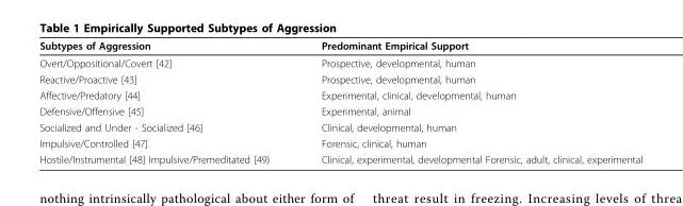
<table><thead><tr><td>Subtypes of Aggression</td><td>Predominant Empirical Support</td></tr></thead><tbody><tr><td>Overt/Oppositional/Covert [42]</td><td>Prospective, developmental, human</td></tr><tr><td>Reactive/Proactive [43]</td><td>Prospective, developmental, human</td></tr><tr><td>Affective/Predatory [44]</td><td>Experimental, clinical, developmental, human</td></tr><tr><td>Defensive/Offensive [45]</td><td>Experimental, animal</td></tr><tr><td>Socialized and Under - Socialized [46]</td><td>Clinical, developmental, human</td></tr><tr><td>Impulsive/Controlled [47]</td><td>Forensic, clinical, human</td></tr><tr><td>Hostile/Instrumental [48] Impulsive/Premeditated [49)</td><td>Clinical, experimental, developmental Forensic, adult, clinical, experimental</td></tr></tbody></table>